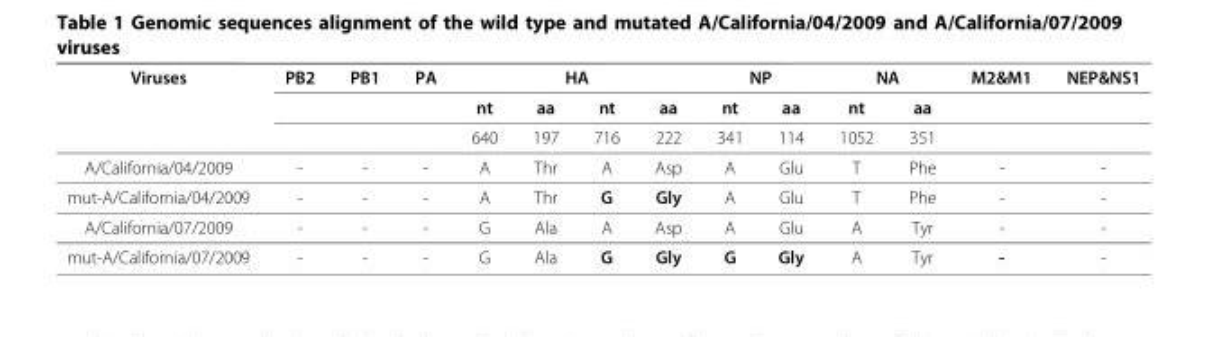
<table><thead><tr><td rowspan="3">Viruses</td><td rowspan="3">PB2</td><td rowspan="3">PB1</td><td rowspan="3">PA</td><td colspan="4">HA</td><td colspan="2">NP</td><td colspan="2">NA</td><td rowspan="3">M2&amp;M1</td><td rowspan="3">NEP&amp;NS1</td></tr><tr><td rowspan="2">nt 640</td><td rowspan="2">aa 197</td><td rowspan="2">nt 716</td><td rowspan="2">aa 222</td><td rowspan="2">nt 341</td><td rowspan="2">aa 114</td><td rowspan="2">nt 1052</td><td rowspan="2">aa 351</td></tr><tr></tr></thead><tbody><tr><td>A/California/04/2009</td><td>-</td><td>-</td><td>-</td><td>A</td><td>Thr</td><td>A</td><td>Asp</td><td>A</td><td>Glu</td><td>T</td><td>Phe</td><td>-</td><td>-</td></tr><tr><td>mut-A/California/04/2009</td><td>-</td><td>-</td><td>-</td><td>A</td><td>Thr</td><td>G</td><td>Gly</td><td>A</td><td>Glu</td><td>T</td><td>Phe</td><td>-</td><td>-</td></tr><tr><td>A/California/07/2009</td><td>-</td><td>-</td><td>-</td><td>G</td><td>Ala</td><td>A</td><td>Asp</td><td>A</td><td>Glu</td><td>A</td><td>Tyr</td><td>-</td><td>-</td></tr><tr><td>mut-A/California/07/2009</td><td>-</td><td>-</td><td>-</td><td>G</td><td>Ala</td><td>G</td><td>Gly</td><td>G</td><td>Gly</td><td>A</td><td>Tyr</td><td>-</td><td>-</td></tr></tbody></table>